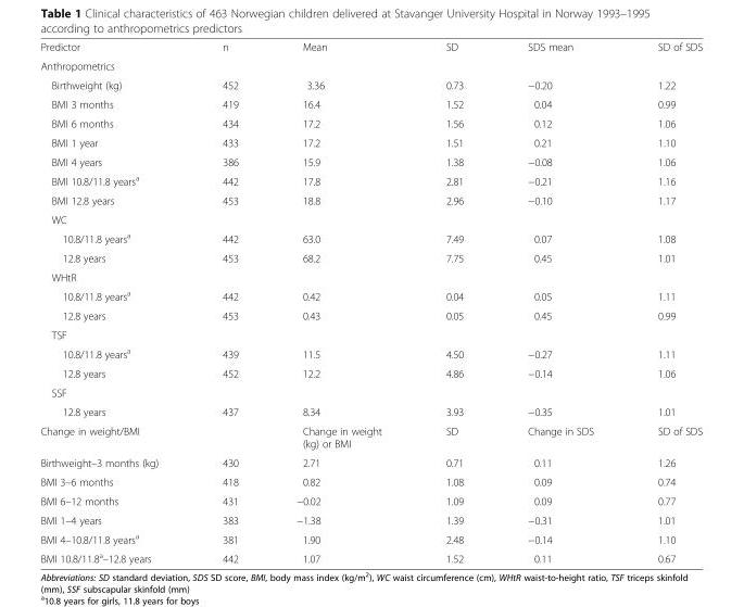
<table><tbody><tr><td>Predictor</td><td>n</td><td>Mean</td><td>SD</td><td>SDS mean</td><td>SD of SDS</td></tr><tr><td colspan="6">Anthropometrics</td></tr><tr><td>Birthweight (kg)</td><td>452</td><td>3.36</td><td>0.73</td><td>−0.20</td><td>1.22</td></tr><tr><td>BMI 3 months</td><td>419</td><td>16.4</td><td>1.52</td><td>0.04</td><td>0.99</td></tr><tr><td>BMI 6 months</td><td>434</td><td>17.2</td><td>1.56</td><td>0.12</td><td>1.06</td></tr><tr><td>BMI 1 year</td><td>433</td><td>17.2</td><td>1.51</td><td>0.21</td><td>1.10</td></tr><tr><td>BMI 4 years</td><td>386</td><td>15.9</td><td>1.38</td><td>−0.08</td><td>1.06</td></tr><tr><td>BMI 10.8/11.8 years<sup>a</sup></td><td>442</td><td>17.8</td><td>2.81</td><td>−0.21</td><td>1.16</td></tr><tr><td>BMI 12.8 years</td><td>453</td><td>18.8</td><td>2.96</td><td>−0.10</td><td>1.17</td></tr><tr><td colspan="6">WC</td></tr><tr><td>10.8/11.8 years<sup>a</sup></td><td>442</td><td>63.0</td><td>7.49</td><td>0.07</td><td>1.08</td></tr><tr><td>12.8 years</td><td>453</td><td>68.2</td><td>7.75</td><td>0.45</td><td>1.01</td></tr><tr><td colspan="6">WHtR</td></tr><tr><td>10.8/11.8 years<sup>a</sup></td><td>442</td><td>0.42</td><td>0.04</td><td>0.05</td><td>1.11</td></tr><tr><td>12.8 years</td><td>453</td><td>0.43</td><td>0.05</td><td>0.45</td><td>0.99</td></tr><tr><td colspan="6">TSF</td></tr><tr><td>10.8/11.8 years<sup>a</sup></td><td>439</td><td>11.5</td><td>4.50</td><td>−0.27</td><td>1.11</td></tr><tr><td>12.8 years</td><td>452</td><td>12.2</td><td>4.86</td><td>−0.14</td><td>1.06</td></tr><tr><td colspan="6">SSF</td></tr><tr><td>12.8 years</td><td>437</td><td>8.34</td><td>3.93</td><td>−0.35</td><td>1.01</td></tr><tr><td>Change in weight/BMI</td><td></td><td>Change in weight (kg) or BMI</td><td>SD</td><td>Change in SDS</td><td>SD of SDS</td></tr><tr><td>Birthweight–3 months (kg)</td><td>430</td><td>2.71</td><td>0.71</td><td>0.11</td><td>1.26</td></tr><tr><td>BMI 3–6 months</td><td>418</td><td>0.82</td><td>1.08</td><td>0.09</td><td>0.74</td></tr><tr><td>BMI 6–12 months</td><td>431</td><td>−0.02</td><td>1.09</td><td>0.09</td><td>0.77</td></tr><tr><td>BMI 1–4 years</td><td>383</td><td>−1.38</td><td>1.39</td><td>−0.31</td><td>1.01</td></tr><tr><td>BMI 4–10.8/11.8 years<sup>a</sup></td><td>381</td><td>1.90</td><td>2.48</td><td>−0.14</td><td>1.10</td></tr><tr><td>BMI 10.8/11.8<sup>a</sup>–12.8 years</td><td>442</td><td>1.07</td><td>1.52</td><td>0.11</td><td>0.67</td></tr></tbody></table>